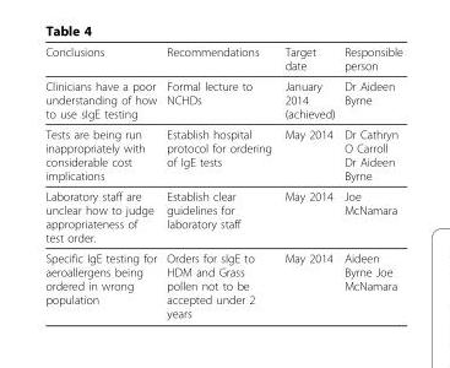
<table><thead><tr><td>Conclusions</td><td>Recommendations</td><td>Target date</td><td>Responsible person</td></tr></thead><tbody><tr><td>Clinicians have a poor understanding of how to use sIgE testing</td><td>Formal lecture to NCHDs</td><td>January 2014 (achieved)</td><td>Dr Aideen Byrne</td></tr><tr><td>Tests are being run inappropriately with considerable cost implications</td><td>Establish hospital protocol for ordering of IgE tests</td><td>May 2014</td><td>Dr Cathryn O Carroll Dr Aideen Byrne</td></tr><tr><td>Laboratory staff are unclear how to judge appropriateness of test order.</td><td>Establish clear guidelines for laboratory staff</td><td>May 2014</td><td>Joe McNamara</td></tr><tr><td>Specific IgE testing for aeroallergens being ordered in wrong population</td><td>Orders for sIgE to HDM and Grass pollen not to be accepted under 2 years</td><td>May 2014</td><td>Aideen Byrne Joe McNamara</td></tr></tbody></table>